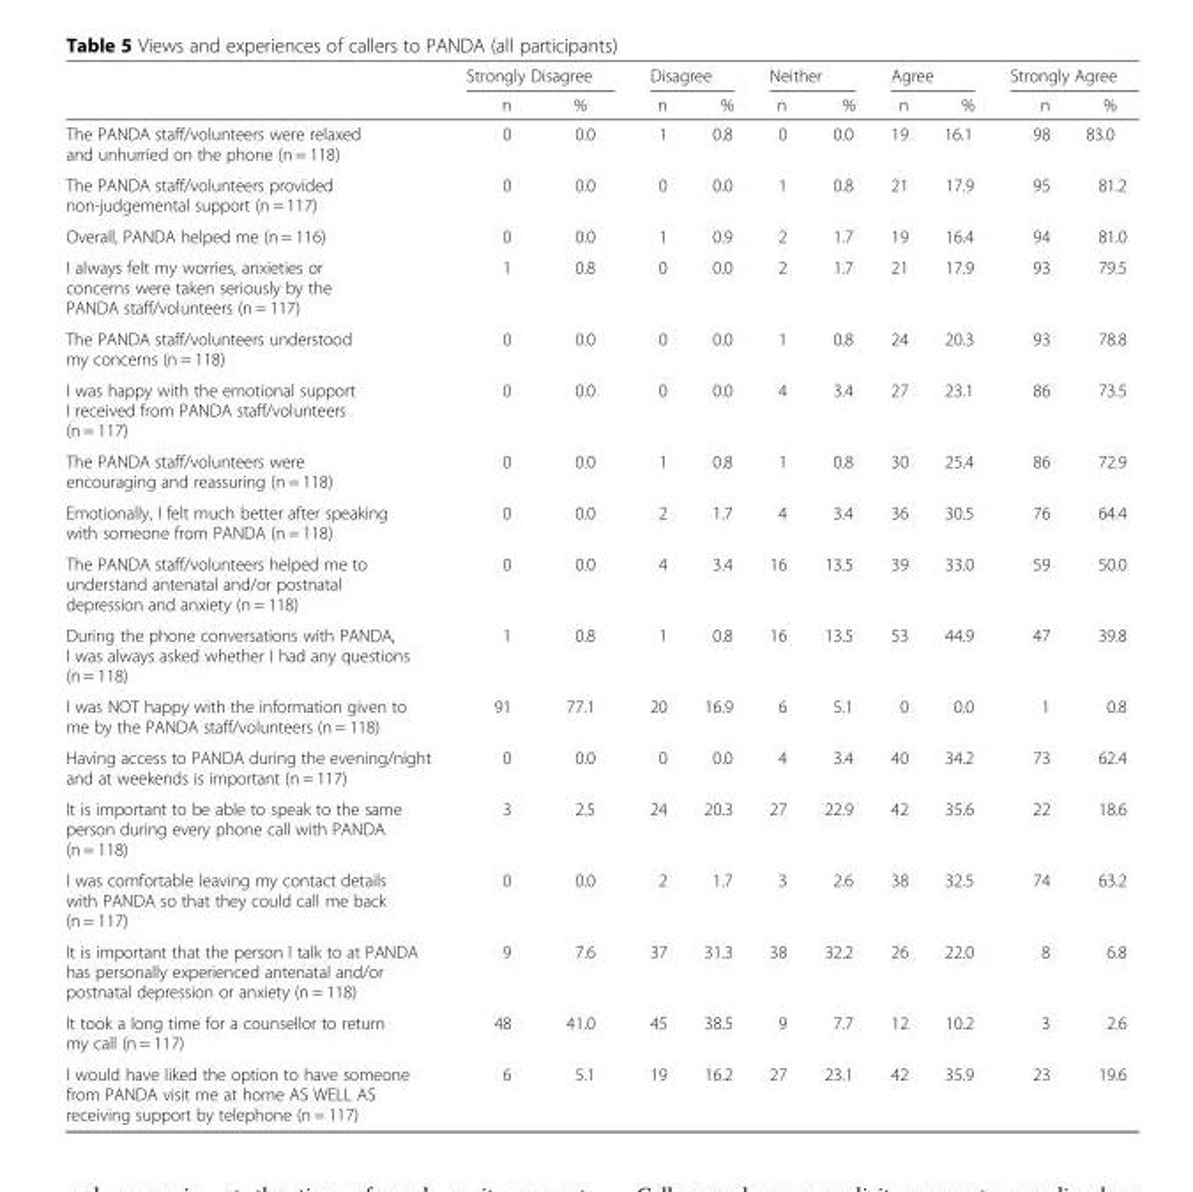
<table><thead><tr><td rowspan="2"></td><td colspan="2">Strongly Disagree</td><td colspan="2">Disagree</td><td colspan="2">Neither</td><td colspan="2">Agree</td><td colspan="2">Strongly Agree</td></tr><tr><td>n</td><td>%</td><td>n</td><td>%</td><td>n</td><td>%</td><td>n</td><td>%</td><td>n</td><td>%</td></tr></thead><tbody><tr><td>The PANDA staff/volunteers were relaxed and unhurried on the phone (n = 118)</td><td>0</td><td>0.0</td><td>1</td><td>0.8</td><td>0</td><td>0.0</td><td>19</td><td>16.1</td><td>98</td><td>83.0</td></tr><tr><td>The PANDA staff/volunteers provided non-judgemental support (n = 117)</td><td>0</td><td>0.0</td><td>0</td><td>0.0</td><td>1</td><td>0.8</td><td>21</td><td>17.9</td><td>95</td><td>81.2</td></tr><tr><td>Overall, PANDA helped me (n = 116)</td><td>0</td><td>0.0</td><td>1</td><td>0.9</td><td>2</td><td>1.7</td><td>19</td><td>16.4</td><td>94</td><td>81.0</td></tr><tr><td>I always felt my worries, anxieties or concerns were taken seriously by the PANDA staff/volunteers (n = 117)</td><td>1</td><td>0.8</td><td>0</td><td>0.0</td><td>2</td><td>1.7</td><td>21</td><td>17.9</td><td>93</td><td>79.5</td></tr><tr><td>The PANDA staff/volunteers understood my concerns (n = 118)</td><td>0</td><td>0.0</td><td>0</td><td>0.0</td><td>1</td><td>0.8</td><td>24</td><td>20.3</td><td>93</td><td>78.8</td></tr><tr><td>I was happy with the emotional support I received from PANDA staff/volunteers (n = 117)</td><td>0</td><td>0.0</td><td>0</td><td>0.0</td><td>4</td><td>3.4</td><td>27</td><td>23.1</td><td>86</td><td>73.5</td></tr><tr><td>The PANDA staff/volunteers were encouraging and reassuring (n = 118)</td><td>0</td><td>0.0</td><td>1</td><td>0.8</td><td>1</td><td>0.8</td><td>30</td><td>25.4</td><td>86</td><td>72.9</td></tr><tr><td>Emotionally, I felt much better after speaking with someone from PANDA (n = 118)</td><td>0</td><td>0.0</td><td>2</td><td>1.7</td><td>4</td><td>3.4</td><td>36</td><td>30.5</td><td>76</td><td>64.4</td></tr><tr><td>The PANDA staff/volunteers helped me to understand antenatal and/or postnatal depression and anxiety (n = 118)</td><td>0</td><td>0.0</td><td>4</td><td>3.4</td><td>16</td><td>13.5</td><td>39</td><td>33.0</td><td>59</td><td>50.0</td></tr><tr><td>During the phone conversations with PANDA, I was always asked whether I had any questions (n = 118)</td><td>1</td><td>0.8</td><td>1</td><td>0.8</td><td>16</td><td>13.5</td><td>53</td><td>44.9</td><td>47</td><td>39.8</td></tr><tr><td>I was NOT happy with the information given to me by the PANDA staff/volunteers (n = 118)</td><td>91</td><td>77.1</td><td>20</td><td>16.9</td><td>6</td><td>5.1</td><td>0</td><td>0.0</td><td>1</td><td>0.8</td></tr><tr><td>Having access to PANDA during the evening/night and at weekends is important (n = 117)</td><td>0</td><td>0.0</td><td>0</td><td>0.0</td><td>4</td><td>3.4</td><td>40</td><td>34.2</td><td>73</td><td>62.4</td></tr><tr><td>It is important to be able to speak to the same person during every phone call with PANDA (n = 118)</td><td>3</td><td>2.5</td><td>24</td><td>20.3</td><td>27</td><td>22.9</td><td>42</td><td>35.6</td><td>22</td><td>18.6</td></tr><tr><td>I was comfortable leaving my contact details with PANDA so that they could call me back (n = 117)</td><td>0</td><td>0.0</td><td>2</td><td>1.7</td><td>3</td><td>2.6</td><td>38</td><td>32.5</td><td>74</td><td>63.2</td></tr><tr><td>It is important that the person I talk to at PANDA has personally experienced antenatal and/or postnatal depression or anxiety (n = 118)</td><td>9</td><td>7.6</td><td>37</td><td>31.3</td><td>38</td><td>32.2</td><td>26</td><td>22.0</td><td>8</td><td>6.8</td></tr><tr><td>It took a long time for a counsellor to return my call (n = 117)</td><td>48</td><td>41.0</td><td>45</td><td>38.5</td><td>9</td><td>7.7</td><td>12</td><td>10.2</td><td>3</td><td>2.6</td></tr><tr><td>I would have liked the option to have someone from PANDA visit me at home AS WELL AS receiving support by telephone (n = 117)</td><td>6</td><td>5.1</td><td>19</td><td>16.2</td><td>27</td><td>23.1</td><td>42</td><td>35.9</td><td>23</td><td>19.6</td></tr></tbody></table>